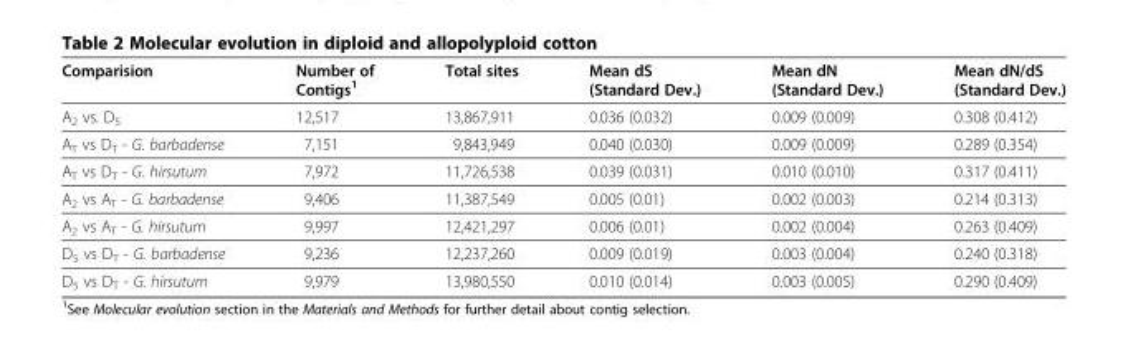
<table><thead><tr><td>Comparision</td><td>Number of Contigs<sup>1</sup></td><td>Total sites</td><td>Mean dS (Standard Dev.)</td><td>Mean dN (Standard Dev.)</td><td>Mean dN/dS (Standard Dev.)</td></tr></thead><tbody><tr><td>A<sub>2</sub> vs. D<sub>5</sub></td><td>12,517</td><td>13,867,911</td><td>0.036 (0.032)</td><td>0.009 (0.009)</td><td>0.308 (0.412)</td></tr><tr><td>A<sub>T</sub> vs D<sub>T</sub> - G. barbadense</td><td>7,151</td><td>9,843,949</td><td>0.040 (0.030)</td><td>0.009 (0.009)</td><td>0.289 (0.354)</td></tr><tr><td>A<sub>T</sub> vs D<sub>T</sub> - G. hirsutum</td><td>7,972</td><td>11,726,538</td><td>0.039 (0.031)</td><td>0.010 (0.010)</td><td>0.317 (0.411)</td></tr><tr><td>A<sub>2</sub> vs A<sub>T</sub> - G. barbadense</td><td>9,406</td><td>11,387,549</td><td>0.005 (0.01)</td><td>0.002 (0.003)</td><td>0.214 (0.313)</td></tr><tr><td>A<sub>2</sub> vs A<sub>T</sub> - G. hirsutum</td><td>9,997</td><td>12,421,297</td><td>0.006 (0.01)</td><td>0.002 (0.004)</td><td>0.263 (0.409)</td></tr><tr><td>D<sub>5</sub> vs D<sub>T</sub> - G. barbadense</td><td>9,236</td><td>12,237,260</td><td>0.009 (0.019)</td><td>0.003 (0.004)</td><td>0.240 (0.318)</td></tr><tr><td>D<sub>5</sub> vs D<sub>T</sub> - G. hirsutum</td><td>9,979</td><td>13,980,550</td><td>0.010 (0.014)</td><td>0.003 (0.005)</td><td>0.290 (0.409)</td></tr></tbody></table>